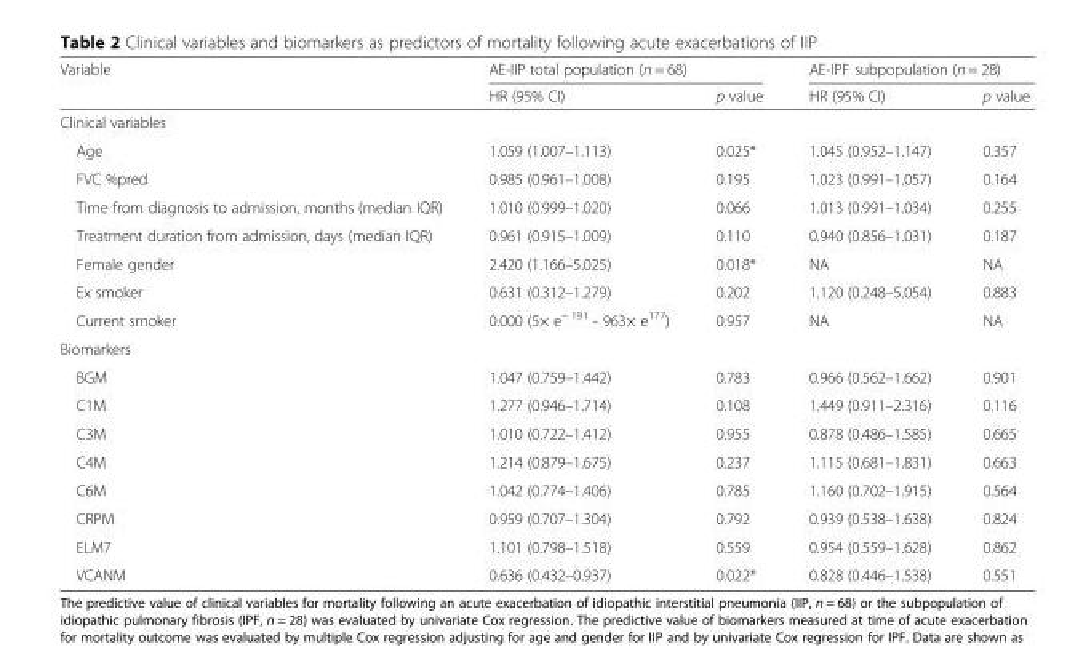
<table><thead><tr><td rowspan="2">Variable</td><td colspan="2">AE-IIP total population (n = 68)</td><td colspan="2">AE-IPF subpopulation (n = 28)</td></tr><tr><td>HR (95% CI)</td><td>p value</td><td>HR (95% CI)</td><td>p value</td></tr></thead><tbody><tr><td colspan="5">Clinical variables</td></tr><tr><td>Age</td><td>1.059 (1.007–1.113)</td><td>0.025*</td><td>1.045 (0.952–1.147)</td><td>0.357</td></tr><tr><td>FVC %pred</td><td>0.985 (0.961–1.008)</td><td>0.195</td><td>1.023 (0.991–1.057)</td><td>0.164</td></tr><tr><td>Time from diagnosis to admission, months (median IQR)</td><td>1.010 (0.999–1.020)</td><td>0.066</td><td>1.013 (0.991–1.034)</td><td>0.255</td></tr><tr><td>Treatment duration from admission, days (median IQR)</td><td>0.961 (0.915–1.009)</td><td>0.110</td><td>0.940 (0.856–1.031)</td><td>0.187</td></tr><tr><td>Female gender</td><td>2.420 (1.166–5.025)</td><td>0.018*</td><td>NA</td><td>NA</td></tr><tr><td>Ex smoker</td><td>0.631 (0.312–1.279)</td><td>0.202</td><td>1.120 (0.248–5.054)</td><td>0.883</td></tr><tr><td>Current smoker</td><td>0.000 (5× e<sup>− 191</sup> - 963× e<sup>177</sup>)</td><td>0.957</td><td>NA</td><td>NA</td></tr><tr><td colspan="5">Biomarkers</td></tr><tr><td>BGM</td><td>1.047 (0.759–1.442)</td><td>0.783</td><td>0.966 (0.562–1.662)</td><td>0.901</td></tr><tr><td>C1M</td><td>1.277 (0.946–1.714)</td><td>0.108</td><td>1.449 (0.911–2.316)</td><td>0.116</td></tr><tr><td>C3M</td><td>1.010 (0.722–1.412)</td><td>0.955</td><td>0.878 (0.486–1.585)</td><td>0.665</td></tr><tr><td>C4M</td><td>1.214 (0.879–1.675)</td><td>0.237</td><td>1.115 (0.681–1.831)</td><td>0.663</td></tr><tr><td>C6M</td><td>1.042 (0.774–1.406)</td><td>0.785</td><td>1.160 (0.702–1.915)</td><td>0.564</td></tr><tr><td>CRPM</td><td>0.959 (0.707–1.304)</td><td>0.792</td><td>0.939 (0.538–1.638)</td><td>0.824</td></tr><tr><td>ELM7</td><td>1.101 (0.798–1.518)</td><td>0.559</td><td>0.954 (0.559–1.628)</td><td>0.862</td></tr><tr><td>VCANM</td><td>0.636 (0.432–0.937)</td><td>0.022*</td><td>0.828 (0.446–1.538)</td><td>0.551</td></tr></tbody></table>